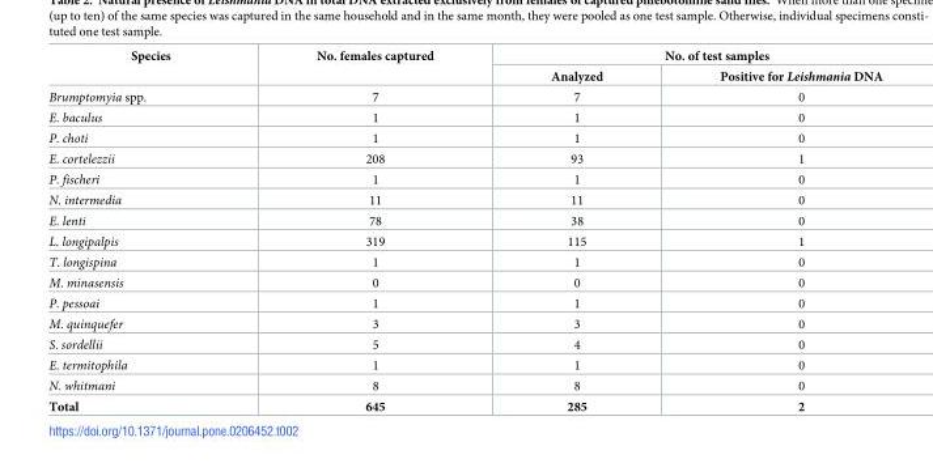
<table><thead><tr><td rowspan="2">Species</td><td rowspan="2">No. females captured</td><td colspan="2">No. of test samples</td></tr><tr><td>Analyzed</td><td>Positive for Leishmania DNA</td></tr></thead><tbody><tr><td>Brumptomyia spp.</td><td>7</td><td>7</td><td>0</td></tr><tr><td>E. baculus</td><td>1</td><td>1</td><td>0</td></tr><tr><td>P. choti</td><td>1</td><td>1</td><td>0</td></tr><tr><td>E. cortelezzii</td><td>208</td><td>93</td><td>1</td></tr><tr><td>P. fischeri</td><td>1</td><td>1</td><td>0</td></tr><tr><td>N. intermedia</td><td>11</td><td>11</td><td>0</td></tr><tr><td>E. lenti</td><td>78</td><td>38</td><td>0</td></tr><tr><td>L. longipalpis</td><td>319</td><td>115</td><td>1</td></tr><tr><td>T. longispina</td><td>1</td><td>1</td><td>0</td></tr><tr><td>M. minasensis</td><td>0</td><td>0</td><td>0</td></tr><tr><td>P. pessoai</td><td>1</td><td>1</td><td>0</td></tr><tr><td>M. quinquefer</td><td>3</td><td>3</td><td>0</td></tr><tr><td>S. sordellii</td><td>5</td><td>4</td><td>0</td></tr><tr><td>E. termitophila</td><td>1</td><td>1</td><td>0</td></tr><tr><td>N. whitmani</td><td>8</td><td>8</td><td>0</td></tr><tr><td>Total</td><td>645</td><td>285</td><td>2</td></tr></tbody></table>